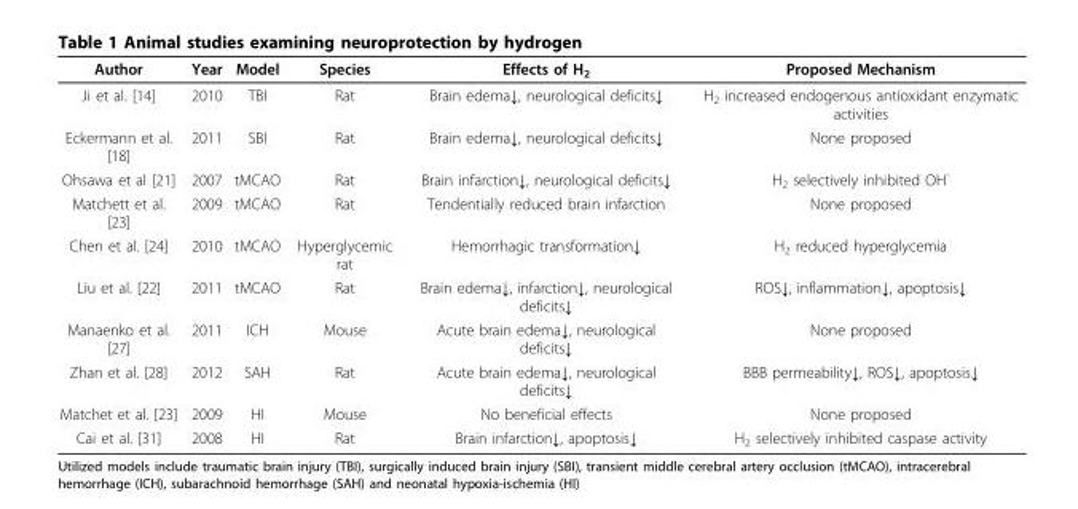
<table><thead><tr><td>Author</td><td>Year</td><td>Model</td><td>Species</td><td>Effects of H<sub>2</sub></td><td>Proposed Mechanism</td></tr></thead><tbody><tr><td>Ji et al. [14]</td><td>2010</td><td>TBI</td><td>Rat</td><td>Brain edema↓, neurological deficits↓</td><td>H<sub>2</sub> increased endogenous antioxidant enzymatic activities</td></tr><tr><td>Eckermann et al. [18]</td><td>2011</td><td>SBI</td><td>Rat</td><td>Brain edema↓, neurological deficits↓</td><td>None proposed</td></tr><tr><td>Ohsawa et al [21]</td><td>2007</td><td>tMCAO</td><td>Rat</td><td>Brain infarction↓, neurological deficits↓</td><td>H<sub>2</sub> selectively inhibited OH<sup>-</sup></td></tr><tr><td>Matchett et al. [23]</td><td>2009</td><td>tMCAO</td><td>Rat</td><td>Tendentially reduced brain infarction</td><td>None proposed</td></tr><tr><td>Chen et al. [24]</td><td>2010</td><td>tMCAO</td><td>Hyperglycemic rat</td><td>Hemorrhagic transformation↓</td><td>H<sub>2</sub> reduced hyperglycemia</td></tr><tr><td>Liu et al. [22]</td><td>2011</td><td>tMCAO</td><td>Rat</td><td>Brain edema↓, infarction↓, neurological deficits↓</td><td>ROS↓, inflammation↓, apoptosis↓</td></tr><tr><td>Manaenko et al. [27]</td><td>2011</td><td>ICH</td><td>Mouse</td><td>Acute brain edema↓, neurological deficits↓</td><td>None proposed</td></tr><tr><td>Zhan et al. [28]</td><td>2012</td><td>SAH</td><td>Rat</td><td>Acute brain edema↓, neurological deficits↓</td><td>BBB permeability↓, ROS↓, apoptosis↓</td></tr><tr><td>Matchet et al. [23]</td><td>2009</td><td>HI</td><td>Mouse</td><td>No beneficial effects</td><td>None proposed</td></tr><tr><td>Cai et al. [31]</td><td>2008</td><td>HI</td><td>Rat</td><td>Brain infarction↓, apoptosis↓</td><td>H<sub>2</sub> selectively inhibited caspase activity</td></tr></tbody></table>